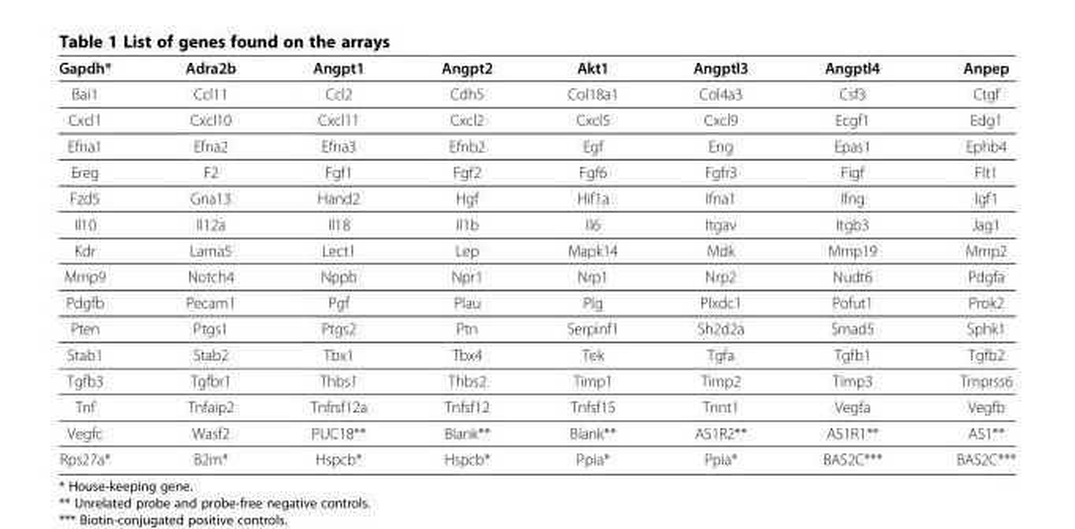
<table><thead><tr><td>Gapdh*</td><td>Adra2b</td><td>Angpt1</td><td>Angpt2</td><td>Akt1</td><td>Angptl3</td><td>Angptl4</td><td>Anpep</td></tr></thead><tbody><tr><td>Bai1</td><td>Ccl11</td><td>Ccl2</td><td>Cdh5</td><td>Col18a1</td><td>Col4a3</td><td>Csf3</td><td>Ctgf</td></tr><tr><td>Cxcl1</td><td>Cxcl10</td><td>Cxcl11</td><td>Cxcl2</td><td>Cxcl5</td><td>Cxcl9</td><td>Ecgf1</td><td>Edg1</td></tr><tr><td>Efna1</td><td>Efna2</td><td>Efna3</td><td>Efnb2</td><td>Egf</td><td>Eng</td><td>Epas1</td><td>Ephb4</td></tr><tr><td>Ereg</td><td>F2</td><td>Fgf1</td><td>Fgf2</td><td>Fgf6</td><td>Fgfr3</td><td>Figf</td><td>Flt1</td></tr><tr><td>Fzd5</td><td>Gna13</td><td>Hand2</td><td>Hgf</td><td>Hif1a</td><td>Ifna1</td><td>Ifng</td><td>Igf1</td></tr><tr><td>Il10</td><td>Il12a</td><td>Il18</td><td>Il1b</td><td>Il6</td><td>Itgav</td><td>Itgb3</td><td>Jag1</td></tr><tr><td>Kdr</td><td>Lama5</td><td>Lect1</td><td>Lep</td><td>Mapk14</td><td>Mdk</td><td>Mmp19</td><td>Mmp2</td></tr><tr><td>Mmp9</td><td>Notch4</td><td>Nppb</td><td>Npr1</td><td>Nrp1</td><td>Nrp2</td><td>Nudt6</td><td>Pdgfa</td></tr><tr><td>Pdgfb</td><td>Pecam1</td><td>Pgf</td><td>Plau</td><td>Plg</td><td>Plxdc1</td><td>Pofut1</td><td>Prok2</td></tr><tr><td>Pten</td><td>Ptgs1</td><td>Ptgs2</td><td>Ptn</td><td>Serpinf1</td><td>Sh2d2a</td><td>Smad5</td><td>Sphk1</td></tr><tr><td>Stab1</td><td>Stab2</td><td>Tbx1</td><td>Tbx4</td><td>Tek</td><td>Tgfa</td><td>Tgfb1</td><td>Tgfb2</td></tr><tr><td>Tgfb3</td><td>Tgfbr1</td><td>Thbs1</td><td>Thbs2</td><td>Timp1</td><td>Timp2</td><td>Timp3</td><td>Tmprss6</td></tr><tr><td>Tnf</td><td>Tnfaip2</td><td>Tnfrsf12a</td><td>Tnfsf12</td><td>Tnfsf15</td><td>Tnnt1</td><td>Vegfa</td><td>Vegfb</td></tr><tr><td>Vegfc</td><td>Wasf2</td><td>PUC18**</td><td>Blank**</td><td>Blank**</td><td>AS1R2**</td><td>AS1R1**</td><td>AS1**</td></tr><tr><td>Rps27a*</td><td>B2m*</td><td>Hspcb*</td><td>Hspcb*</td><td>Ppia*</td><td>Ppia*</td><td>BAS2C***</td><td>BAS2C***</td></tr></tbody></table>